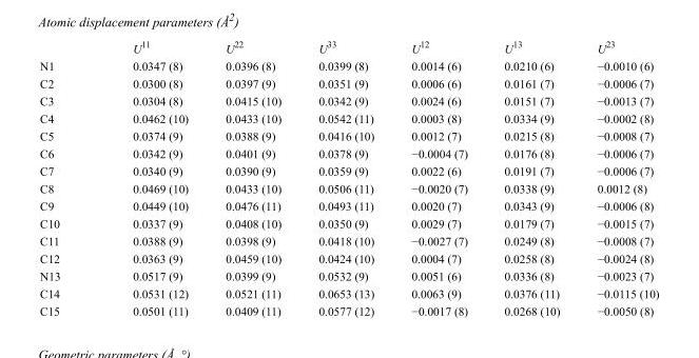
<table><thead><tr><td></td><td>U<sup>11</sup></td><td>U<sup>22</sup></td><td>U<sup>33</sup></td><td>U<sup>12</sup></td><td>U<sup>13</sup></td><td>U<sup>23</sup></td></tr></thead><tbody><tr><td>N1</td><td>0.0347 (8)</td><td>0.0396 (8)</td><td>0.0399 (8)</td><td>0.0014 (6)</td><td>0.0210 (6)</td><td>−0.0010 (6)</td></tr><tr><td>C2</td><td>0.0300 (8)</td><td>0.0397 (9)</td><td>0.0351 (9)</td><td>0.0006 (6)</td><td>0.0161 (7)</td><td>−0.0006 (7)</td></tr><tr><td>C3</td><td>0.0304 (8)</td><td>0.0415 (10)</td><td>0.0342 (9)</td><td>0.0024 (6)</td><td>0.0151 (7)</td><td>−0.0013 (7)</td></tr><tr><td>C4</td><td>0.0462 (10)</td><td>0.0433 (10)</td><td>0.0542 (11)</td><td>0.0003 (8)</td><td>0.0334 (9)</td><td>−0.0002 (8)</td></tr><tr><td>C5</td><td>0.0374 (9)</td><td>0.0388 (9)</td><td>0.0416 (10)</td><td>0.0012 (7)</td><td>0.0215 (8)</td><td>−0.0008 (7)</td></tr><tr><td>C6</td><td>0.0342 (9)</td><td>0.0401 (9)</td><td>0.0378 (9)</td><td>−0.0004 (7)</td><td>0.0176 (8)</td><td>−0.0006 (7)</td></tr><tr><td>C7</td><td>0.0340 (9)</td><td>0.0390 (9)</td><td>0.0359 (9)</td><td>0.0022 (6)</td><td>0.0191 (7)</td><td>−0.0006 (7)</td></tr><tr><td>C8</td><td>0.0469 (10)</td><td>0.0433 (10)</td><td>0.0506 (11)</td><td>−0.0020 (7)</td><td>0.0338 (9)</td><td>0.0012 (8)</td></tr><tr><td>C9</td><td>0.0449 (10)</td><td>0.0476 (11)</td><td>0.0493 (11)</td><td>0.0020 (7)</td><td>0.0343 (9)</td><td>−0.0006 (8)</td></tr><tr><td>C10</td><td>0.0337 (9)</td><td>0.0408 (10)</td><td>0.0350 (9)</td><td>0.0029 (7)</td><td>0.0179 (7)</td><td>−0.0015 (7)</td></tr><tr><td>C11</td><td>0.0388 (9)</td><td>0.0398 (9)</td><td>0.0418 (10)</td><td>−0.0027 (7)</td><td>0.0249 (8)</td><td>−0.0008 (7)</td></tr><tr><td>C12</td><td>0.0363 (9)</td><td>0.0459 (10)</td><td>0.0424 (10)</td><td>0.0004 (7)</td><td>0.0258 (8)</td><td>−0.0024 (8)</td></tr><tr><td>N13</td><td>0.0517 (9)</td><td>0.0399 (9)</td><td>0.0532 (9)</td><td>0.0051 (6)</td><td>0.0336 (8)</td><td>−0.0023 (7)</td></tr><tr><td>C14</td><td>0.0531 (12)</td><td>0.0521 (11)</td><td>0.0653 (13)</td><td>0.0063 (9)</td><td>0.0376 (11)</td><td>−0.0115 (10)</td></tr><tr><td>C15</td><td>0.0501 (11)</td><td>0.0409 (11)</td><td>0.0577 (12)</td><td>−0.0017 (8)</td><td>0.0268 (10)</td><td>−0.0050 (8)</td></tr></tbody></table>